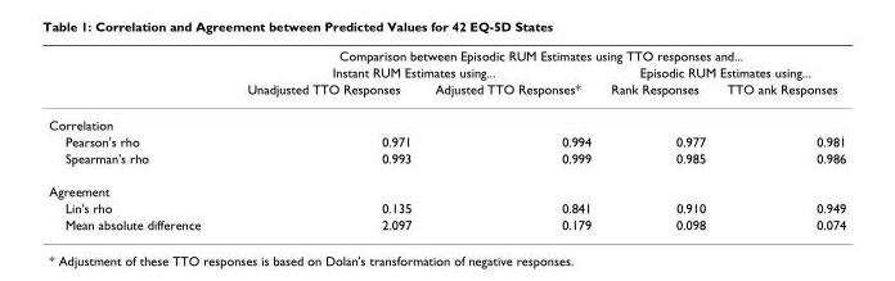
<table><thead><tr><td rowspan="3"></td><td colspan="4">Comparison between Episodic RUM Estimates using TTO responses and...</td></tr><tr><td colspan="2">Instant RUM Estimates using...</td><td colspan="2">Episodic RUM Estimates using...</td></tr><tr><td>Unadjusted TTO Responses</td><td>Adjusted TTO Responses*</td><td>Rank Responses</td><td>TTO ank Responses</td></tr></thead><tbody><tr><td colspan="5">Correlation</td></tr><tr><td>Pearson&#x27;s rho</td><td>0.971</td><td>0.994</td><td>0.977</td><td>0.981</td></tr><tr><td>Spearman&#x27;s rho</td><td>0.993</td><td>0.999</td><td>0.985</td><td>0.986</td></tr><tr><td colspan="5">Agreement</td></tr><tr><td>Lin&#x27;s rho</td><td>0.135</td><td>0.841</td><td>0.910</td><td>0.949</td></tr><tr><td>Mean absolute difference</td><td>2.097</td><td>0.179</td><td>0.098</td><td>0.074</td></tr></tbody></table>